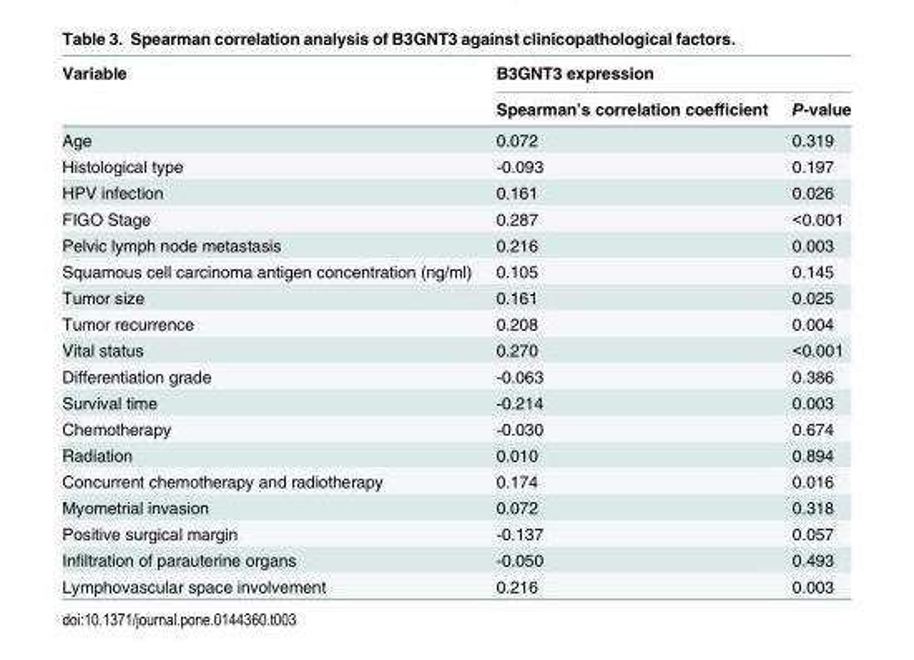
<table><thead><tr><td rowspan="2">Variable</td><td colspan="2">B3GNT3 expression</td></tr><tr><td>Spearman’s correlation coefficient</td><td>P-value</td></tr></thead><tbody><tr><td>Age</td><td>0.072</td><td>0.319</td></tr><tr><td>Histological type</td><td>-0.093</td><td>0.197</td></tr><tr><td>HPV infection</td><td>0.161</td><td>0.026</td></tr><tr><td>FIGO Stage</td><td>0.287</td><td>&lt;0.001</td></tr><tr><td>Pelvic lymph node metastasis</td><td>0.216</td><td>0.003</td></tr><tr><td>Squamous cell carcinoma antigen concentration (ng/ml)</td><td>0.105</td><td>0.145</td></tr><tr><td>Tumor size</td><td>0.161</td><td>0.025</td></tr><tr><td>Tumor recurrence</td><td>0.208</td><td>0.004</td></tr><tr><td>Vital status</td><td>0.270</td><td>&lt;0.001</td></tr><tr><td>Differentiation grade</td><td>-0.063</td><td>0.386</td></tr><tr><td>Survival time</td><td>-0.214</td><td>0.003</td></tr><tr><td>Chemotherapy</td><td>-0.030</td><td>0.674</td></tr><tr><td>Radiation</td><td>0.010</td><td>0.894</td></tr><tr><td>Concurrent chemotherapy and radiotherapy</td><td>0.174</td><td>0.016</td></tr><tr><td>Myometrial invasion</td><td>0.072</td><td>0.318</td></tr><tr><td>Positive surgical margin</td><td>-0.137</td><td>0.057</td></tr><tr><td>Infiltration of parauterine organs</td><td>-0.050</td><td>0.493</td></tr><tr><td>Lymphovascular space involvement</td><td>0.216</td><td>0.003</td></tr></tbody></table>